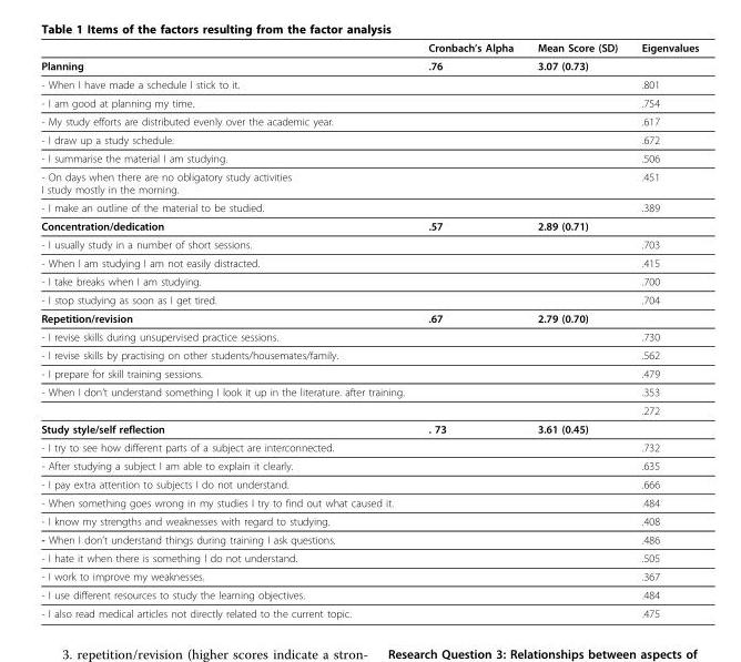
<table><thead><tr><td></td><td>Cronbach’s Alpha</td><td>Mean Score (SD)</td><td>Eigenvalues</td></tr></thead><tbody><tr><td>Planning</td><td>.76</td><td>3.07 (0.73)</td><td></td></tr><tr><td>- When I have made a schedule I stick to it.</td><td></td><td></td><td>.801</td></tr><tr><td>- I am good at planning my time.</td><td></td><td></td><td>.754</td></tr><tr><td>- My study efforts are distributed evenly over the academic year.</td><td></td><td></td><td>.617</td></tr><tr><td>- I draw up a study schedule.</td><td></td><td></td><td>.672</td></tr><tr><td>- I summarise the material I am studying.</td><td></td><td></td><td>.506</td></tr><tr><td>- On days when there are no obligatory study activities I study mostly in the morning.</td><td></td><td></td><td>.451</td></tr><tr><td>- I make an outline of the material to be studied.</td><td></td><td></td><td>.389</td></tr><tr><td>Concentration/dedication</td><td>.57</td><td>2.89 (0.71)</td><td></td></tr><tr><td>- I usually study in a number of short sessions.</td><td></td><td></td><td>.703</td></tr><tr><td>- When I am studying I am not easily distracted.</td><td></td><td></td><td>.415</td></tr><tr><td>- I take breaks when I am studying.</td><td></td><td></td><td>.700</td></tr><tr><td>- I stop studying as soon as I get tired.</td><td></td><td></td><td>.704</td></tr><tr><td>Repetition/revision</td><td>.67</td><td>2.79 (0.70)</td><td></td></tr><tr><td>- I revise skills during unsupervised practice sessions.</td><td></td><td></td><td>.730</td></tr><tr><td>- I revise skills by practising on other students/housemates/family.</td><td></td><td></td><td>.562</td></tr><tr><td>- I prepare for skill training sessions.</td><td></td><td></td><td>.479</td></tr><tr><td>- When I don’t understand something I look it up in the literature. after training.</td><td></td><td></td><td>.353</td></tr><tr><td></td><td></td><td></td><td>.272</td></tr><tr><td>Study style/self reflection</td><td>. 73</td><td>3.61 (0.45)</td><td></td></tr><tr><td>- I try to see how different parts of a subject are interconnected.</td><td></td><td></td><td>.732</td></tr><tr><td>- After studying a subject I am able to explain it clearly.</td><td></td><td></td><td>.635</td></tr><tr><td>- I pay extra attention to subjects I do not understand.</td><td></td><td></td><td>.666</td></tr><tr><td>- When something goes wrong in my studies I try to find out what caused it.</td><td></td><td></td><td>.484</td></tr><tr><td>- I know my strengths and weaknesses with regard to studying.</td><td></td><td></td><td>.408</td></tr><tr><td>- When I don’t understand things during training I ask questions.</td><td></td><td></td><td>.486</td></tr><tr><td>- I hate it when there is something I do not understand.</td><td></td><td></td><td>.505</td></tr><tr><td>- I work to improve my weaknesses.</td><td></td><td></td><td>.367</td></tr><tr><td>- I use different resources to study the learning objectives.</td><td></td><td></td><td>.484</td></tr><tr><td>- I also read medical articles not directly related to the current topic.</td><td></td><td></td><td>.475</td></tr></tbody></table>